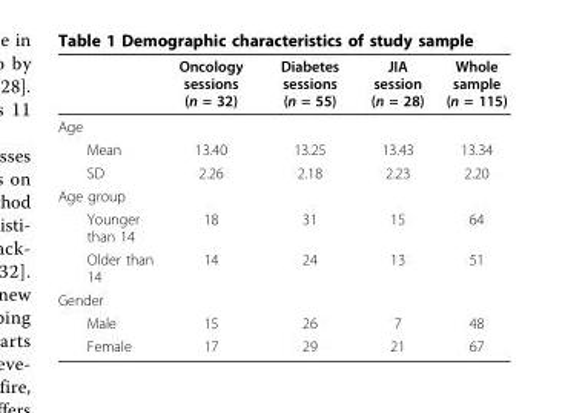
<table><thead><tr><td></td><td>Oncology sessions (n = 32)</td><td>Diabetes sessions (n = 55)</td><td>JIA session (n = 28)</td><td>Whole sample (n = 115)</td></tr></thead><tbody><tr><td colspan="5">Age</td></tr><tr><td>Mean</td><td>13.40</td><td>13.25</td><td>13.43</td><td>13.34</td></tr><tr><td>SD</td><td>2.26</td><td>2.18</td><td>2.23</td><td>2.20</td></tr><tr><td colspan="5">Age group</td></tr><tr><td>Younger than 14</td><td>18</td><td>31</td><td>15</td><td>64</td></tr><tr><td>Older than 14</td><td>14</td><td>24</td><td>13</td><td>51</td></tr><tr><td colspan="5">Gender</td></tr><tr><td>Male</td><td>15</td><td>26</td><td>7</td><td>48</td></tr><tr><td>Female</td><td>17</td><td>29</td><td>21</td><td>67</td></tr></tbody></table>